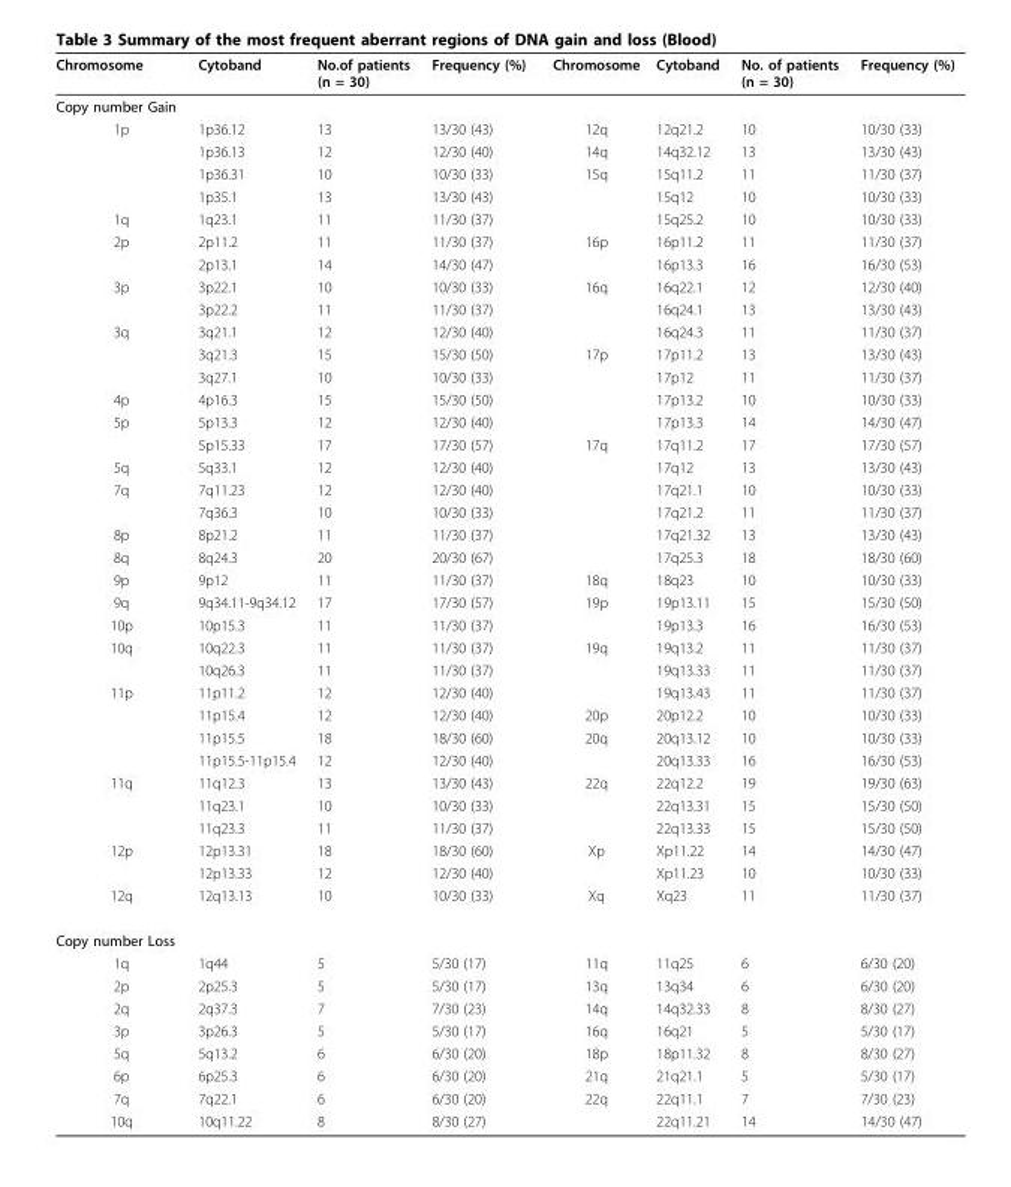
<table><thead><tr><td>Chromosome</td><td>Cytoband</td><td>No.of patients (n = 30)</td><td>Frequency (%)</td><td>Chromosome</td><td>Cytoband</td><td>No. of patients (n = 30)</td><td>Frequency (%)</td></tr></thead><tbody><tr><td colspan="8">Copy number Gain</td></tr><tr><td rowspan="4">1p</td><td>1p36.12</td><td>13</td><td>13/30 (43)</td><td>12q</td><td>12q21.2</td><td>10</td><td>10/30 (33)</td></tr><tr><td>1p36.13</td><td>12</td><td>12/30 (40)</td><td>14q</td><td>14q32.12</td><td>13</td><td>13/30 (43)</td></tr><tr><td>1p36.31</td><td>10</td><td>10/30 (33)</td><td>15q</td><td>15q11.2</td><td>11</td><td>11/30 (37)</td></tr><tr><td>1p35.1</td><td>13</td><td>13/30 (43)</td><td></td><td>15q12</td><td>10</td><td>10/30 (33)</td></tr><tr><td>1q</td><td>1q23.1</td><td>11</td><td>11/30 (37)</td><td></td><td>15q25.2</td><td>10</td><td>10/30 (33)</td></tr><tr><td rowspan="2">2p</td><td>2p11.2</td><td>11</td><td>11/30 (37)</td><td>16p</td><td>16p11.2</td><td>11</td><td>11/30 (37)</td></tr><tr><td>2p13.1</td><td>14</td><td>14/30 (47)</td><td></td><td>16p13.3</td><td>16</td><td>16/30 (53)</td></tr><tr><td rowspan="2">3p</td><td>3p22.1</td><td>10</td><td>10/30 (33)</td><td>16q</td><td>16q22.1</td><td>12</td><td>12/30 (40)</td></tr><tr><td>3p22.2</td><td>11</td><td>11/30 (37)</td><td></td><td>16q24.1</td><td>13</td><td>13/30 (43)</td></tr><tr><td rowspan="3">3q</td><td>3q21.1</td><td>12</td><td>12/30 (40)</td><td></td><td>16q24.3</td><td>11</td><td>11/30 (37)</td></tr><tr><td>3q21.3</td><td>15</td><td>15/30 (50)</td><td>17p</td><td>17p11.2</td><td>13</td><td>13/30 (43)</td></tr><tr><td>3q27.1</td><td>10</td><td>10/30 (33)</td><td></td><td>17p12</td><td>11</td><td>11/30 (37)</td></tr><tr><td>4p</td><td>4p16.3</td><td>15</td><td>15/30 (50)</td><td></td><td>17p13.2</td><td>10</td><td>10/30 (33)</td></tr><tr><td rowspan="2">5p</td><td>5p13.3</td><td>12</td><td>12/30 (40)</td><td></td><td>17p13.3</td><td>14</td><td>14/30 (47)</td></tr><tr><td>5p15.33</td><td>17</td><td>17/30 (57)</td><td>17q</td><td>17q11.2</td><td>17</td><td>17/30 (57)</td></tr><tr><td>5q</td><td>5q33.1</td><td>12</td><td>12/30 (40)</td><td></td><td>17q12</td><td>13</td><td>13/30 (43)</td></tr><tr><td rowspan="2">7q</td><td>7q11.23</td><td>12</td><td>12/30 (40)</td><td></td><td>17q21.1</td><td>10</td><td>10/30 (33)</td></tr><tr><td>7q36.3</td><td>10</td><td>10/30 (33)</td><td></td><td>17q21.2</td><td>11</td><td>11/30 (37)</td></tr><tr><td>8p</td><td>8p21.2</td><td>11</td><td>11/30 (37)</td><td></td><td>17q21.32</td><td>13</td><td>13/30 (43)</td></tr><tr><td>8q</td><td>8q24.3</td><td>20</td><td>20/30 (67)</td><td></td><td>17q25.3</td><td>18</td><td>18/30 (60)</td></tr><tr><td>9p</td><td>9p12</td><td>11</td><td>11/30 (37)</td><td>18q</td><td>18q23</td><td>10</td><td>10/30 (33)</td></tr><tr><td>9q</td><td>9q34.11-9q34.12</td><td>17</td><td>17/30 (57)</td><td>19p</td><td>19p13.11</td><td>15</td><td>15/30 (50)</td></tr><tr><td>10p</td><td>10p15.3</td><td>11</td><td>11/30 (37)</td><td></td><td>19p13.3</td><td>16</td><td>16/30 (53)</td></tr><tr><td rowspan="2">10q</td><td>10q22.3</td><td>11</td><td>11/30 (37)</td><td>19q</td><td>19q13.2</td><td>11</td><td>11/30 (37)</td></tr><tr><td>10q26.3</td><td>11</td><td>11/30 (37)</td><td></td><td>19q13.33</td><td>11</td><td>11/30 (37)</td></tr><tr><td rowspan="4">11p</td><td>11p11.2</td><td>12</td><td>12/30 (40)</td><td></td><td>19q13.43</td><td>11</td><td>11/30 (37)</td></tr><tr><td>11p15.4</td><td>12</td><td>12/30 (40)</td><td>20p</td><td>20p12.2</td><td>10</td><td>10/30 (33)</td></tr><tr><td>11p15.5</td><td>18</td><td>18/30 (60)</td><td>20q</td><td>20q13.12</td><td>10</td><td>10/30 (33)</td></tr><tr><td>11p15.5-11p15.4</td><td>12</td><td>12/30 (40)</td><td></td><td>20q13.33</td><td>16</td><td>16/30 (53)</td></tr><tr><td rowspan="3">11q</td><td>11q12.3</td><td>13</td><td>13/30 (43)</td><td>22q</td><td>22q12.2</td><td>19</td><td>19/30 (63)</td></tr><tr><td>11q23.1</td><td>10</td><td>10/30 (33)</td><td></td><td>22q13.31</td><td>15</td><td>15/30 (50)</td></tr><tr><td>11q23.3</td><td>11</td><td>11/30 (37)</td><td></td><td>22q13.33</td><td>15</td><td>15/30 (50)</td></tr><tr><td rowspan="2">12p</td><td>12p13.31</td><td>18</td><td>18/30 (60)</td><td>Xp</td><td>Xp11.22</td><td>14</td><td>14/30 (47)</td></tr><tr><td>12p13.33</td><td>12</td><td>12/30 (40)</td><td></td><td>Xp11.23</td><td>10</td><td>10/30 (33)</td></tr><tr><td>12q</td><td>12q13.13</td><td>10</td><td>10/30 (33)</td><td>Xq</td><td>Xq23</td><td>11</td><td>11/30 (37)</td></tr><tr><td colspan="8">Copy number Loss</td></tr><tr><td>1q</td><td>1q44</td><td>5</td><td>5/30 (17)</td><td>11q</td><td>11q25</td><td>6</td><td>6/30 (20)</td></tr><tr><td>2p</td><td>2p25.3</td><td>5</td><td>5/30 (17)</td><td>13q</td><td>13q34</td><td>6</td><td>6/30 (20)</td></tr><tr><td>2q</td><td>2q37.3</td><td>7</td><td>7/30 (23)</td><td>14q</td><td>14q32.33</td><td>8</td><td>8/30 (27)</td></tr><tr><td>3p</td><td>3p26.3</td><td>5</td><td>5/30 (17)</td><td>16q</td><td>16q21</td><td>5</td><td>5/30 (17)</td></tr><tr><td>5q</td><td>5q13.2</td><td>6</td><td>6/30 (20)</td><td>18p</td><td>18p11.32</td><td>8</td><td>8/30 (27)</td></tr><tr><td>6p</td><td>6p25.3</td><td>6</td><td>6/30 (20)</td><td>21q</td><td>21q21.1</td><td>5</td><td>5/30 (17)</td></tr><tr><td>7q</td><td>7q22.1</td><td>6</td><td>6/30 (20)</td><td>22q</td><td>22q11.1</td><td>7</td><td>7/30 (23)</td></tr><tr><td>10q</td><td>10q11.22</td><td>8</td><td>8/30 (27)</td><td></td><td>22q11.21</td><td>14</td><td>14/30 (47)</td></tr></tbody></table>